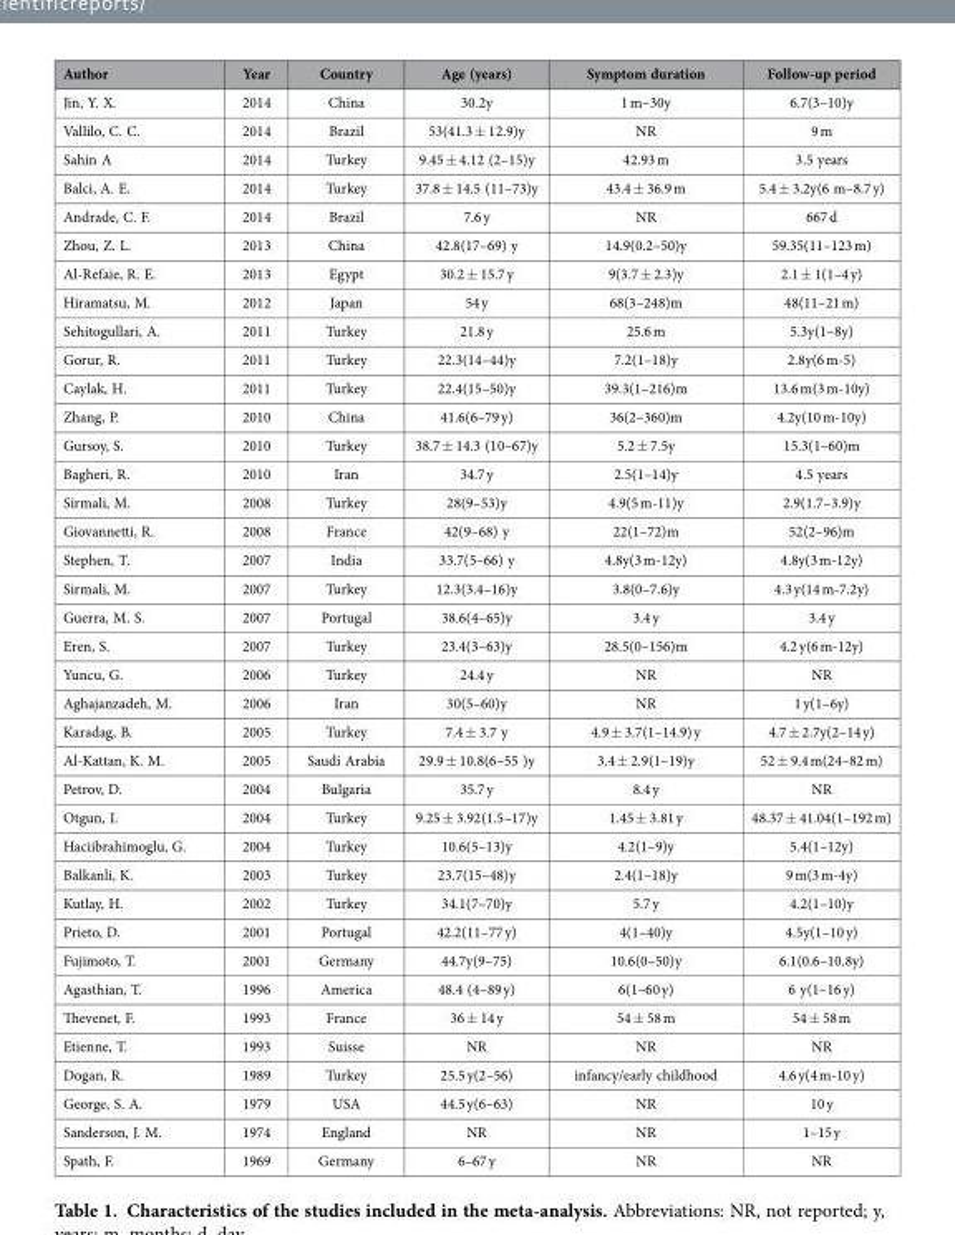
<table><thead><tr><td>Author</td><td>Year</td><td>Country</td><td>Age (years)</td><td>Symptom duration</td><td>Follow-up period</td></tr></thead><tbody><tr><td>Jin, Y. X.</td><td>2014</td><td>China</td><td>30.2y</td><td>1 m–30y</td><td>6.7(3–10)y</td></tr><tr><td>Vallilo, C. C.</td><td>2014</td><td>Brazil</td><td>53(41.3 ± 12.9)y</td><td>NR</td><td>9 m</td></tr><tr><td>Sahin A</td><td>2014</td><td>Turkey</td><td>9.45 ± 4.12 (2–15)y</td><td>42.93 m</td><td>3.5 years</td></tr><tr><td>Balci, A. E.</td><td>2014</td><td>Turkey</td><td>37.8 ± 14.5 (11–73)y</td><td>43.4 ± 36.9 m</td><td>5.4 ± 3.2y(6 m–8.7 y)</td></tr><tr><td>Andrade, C. F.</td><td>2014</td><td>Brazil</td><td>7.6 y</td><td>NR</td><td>667 d</td></tr><tr><td>Zhou, Z. L.</td><td>2013</td><td>China</td><td>42.8(17–69) y</td><td>14.9(0.2–50)y</td><td>59.35(11–123 m)</td></tr><tr><td>Al-Refaie, R. E.</td><td>2013</td><td>Egypt</td><td>30.2 ± 15.7 y</td><td>9(3.7 ± 2.3)y</td><td>2.1 ± 1(1–4 y)</td></tr><tr><td>Hiramatsu, M.</td><td>2012</td><td>Japan</td><td>54 y</td><td>68(3–248)m</td><td>48(11–21 m)</td></tr><tr><td>Sehitogullari, A.</td><td>2011</td><td>Turkey</td><td>21.8 y</td><td>25.6 m</td><td>5.3y(1–8y)</td></tr><tr><td>Gorur, R.</td><td>2011</td><td>Turkey</td><td>22.3(14–44)y</td><td>7.2(1–18)y</td><td>2.8y(6 m-5)</td></tr><tr><td>Caylak, H.</td><td>2011</td><td>Turkey</td><td>22.4(15–50)y</td><td>39.3(1–216)m</td><td>13.6 m(3 m-10y)</td></tr><tr><td>Zhang, P.</td><td>2010</td><td>China</td><td>41.6(6–79 y)</td><td>36(2–360)m</td><td>4.2y(10 m-10y)</td></tr><tr><td>Gursoy, S.</td><td>2010</td><td>Turkey</td><td>38.7 ± 14.3 (10–67)y</td><td>5.2 ± 7.5y</td><td>15.3(1–60)m</td></tr><tr><td>Bagheri, R.</td><td>2010</td><td>Iran</td><td>34.7 y</td><td>2.5(1–14)y</td><td>4.5 years</td></tr><tr><td>Sirmali, M.</td><td>2008</td><td>Turkey</td><td>28(9–53)y</td><td>4.9(5 m-11)y</td><td>2.9(1.7–3.9)y</td></tr><tr><td>Giovannetti, R.</td><td>2008</td><td>France</td><td>42(9–68) y</td><td>22(1–72)m</td><td>52(2–96)m</td></tr><tr><td>Stephen, T.</td><td>2007</td><td>India</td><td>33.7(5–66) y</td><td>4.8y(3 m-12y)</td><td>4.8y(3 m-12y)</td></tr><tr><td>Sirmali, M.</td><td>2007</td><td>Turkey</td><td>12.3(3.4–16)y</td><td>3.8(0–7.6)y</td><td>4.3 y(14 m-7.2y)</td></tr><tr><td>Guerra, M. S.</td><td>2007</td><td>Portugal</td><td>38.6(4–65)y</td><td>3.4 y</td><td>3.4 y</td></tr><tr><td>Eren, S.</td><td>2007</td><td>Turkey</td><td>23.4(3–63)y</td><td>28.5(0–156)m</td><td>4.2 y(6 m-12y)</td></tr><tr><td>Yuncu, G.</td><td>2006</td><td>Turkey</td><td>24.4 y</td><td>NR</td><td>NR</td></tr><tr><td>Aghajanzadeh, M.</td><td>2006</td><td>Iran</td><td>30(5–60)y</td><td>NR</td><td>1 y(1–6y)</td></tr><tr><td>Karadag, B.</td><td>2005</td><td>Turkey</td><td>7.4 ± 3.7 y</td><td>4.9 ± 3.7(1–14.9) y</td><td>4.7 ± 2.7y(2–14 y)</td></tr><tr><td>Al-Kattan, K. M.</td><td>2005</td><td>Saudi Arabia</td><td>29.9 ± 10.8(6–55 )y</td><td>3.4 ± 2.9(1–19)y</td><td>52 ± 9.4 m(24–82 m)</td></tr><tr><td>Petrov, D.</td><td>2004</td><td>Bulgaria</td><td>35.7 y</td><td>8.4 y</td><td>NR</td></tr><tr><td>Otgun, I.</td><td>2004</td><td>Turkey</td><td>9.25 ± 3.92(1.5–17)y</td><td>1.45 ± 3.81 y</td><td>48.37 ± 41.04(1–192 m)</td></tr><tr><td>Haciibrahimoglu, G.</td><td>2004</td><td>Turkey</td><td>10.6(5–13)y</td><td>4.2(1–9)y</td><td>5.4(1–12y)</td></tr><tr><td>Balkanli, K.</td><td>2003</td><td>Turkey</td><td>23.7(15–48)y</td><td>2.4(1–18)y</td><td>9 m(3 m-4y)</td></tr><tr><td>Kutlay, H.</td><td>2002</td><td>Turkey</td><td>34.1(7–70)y</td><td>5.7 y</td><td>4.2(1–10)y</td></tr><tr><td>Prieto, D.</td><td>2001</td><td>Portugal</td><td>42.2(11–77 y)</td><td>4(1–40)y</td><td>4.5y(1–10 y)</td></tr><tr><td>Fujimoto, T.</td><td>2001</td><td>Germany</td><td>44.7y(9–75)</td><td>10.6(0–50)y</td><td>6.1(0.6–10.8y)</td></tr><tr><td>Agasthian, T.</td><td>1996</td><td>America</td><td>48.4 (4–89 y)</td><td>6(1–60 y)</td><td>6 y(1–16 y)</td></tr><tr><td>Thevenet, F.</td><td>1993</td><td>France</td><td>36 ± 14 y</td><td>54 ± 58 m</td><td>54 ± 58 m</td></tr><tr><td>Etienne, T.</td><td>1993</td><td>Suisse</td><td>NR</td><td>NR</td><td>NR</td></tr><tr><td>Dogan, R.</td><td>1989</td><td>Turkey</td><td>25.5 y(2–56)</td><td>infancy/early childhood</td><td>4.6 y(4 m-10 y)</td></tr><tr><td>George, S. A.</td><td>1979</td><td>USA</td><td>44.5 y(6–63)</td><td>NR</td><td>10 y</td></tr><tr><td>Sanderson, J. M.</td><td>1974</td><td>England</td><td>NR</td><td>NR</td><td>1–15 y</td></tr><tr><td>Spath, F.</td><td>1969</td><td>Germany</td><td>6–67 y</td><td>NR</td><td>NR</td></tr></tbody></table>